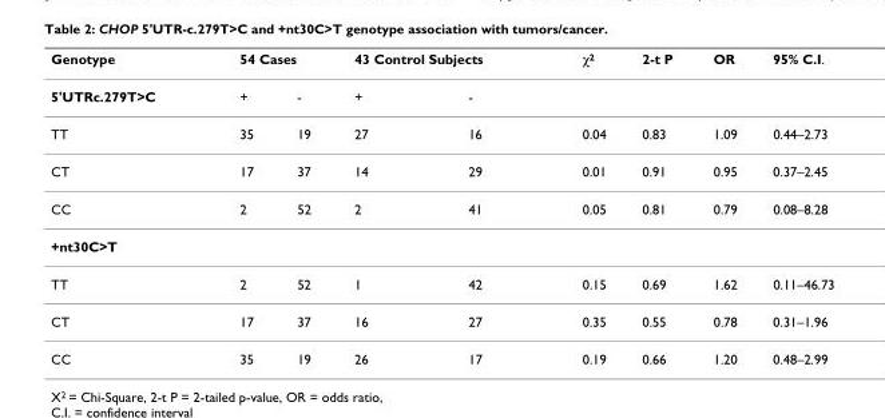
<table><thead><tr><td rowspan="2">Genotype 5&#x27;UTRc.279T&gt;C</td><td colspan="2">54 Cases</td><td colspan="2">43 Control Subjects</td><td rowspan="2">χ<sup>2</sup></td><td rowspan="2">2-t P</td><td rowspan="2">OR</td><td rowspan="2">95% C.I.</td></tr><tr><td>+</td><td>-</td><td>+</td><td>-</td></tr></thead><tbody><tr><td>TT</td><td>35</td><td>19</td><td>27</td><td>16</td><td>0.04</td><td>0.83</td><td>1.09</td><td>0.44–2.73</td></tr><tr><td>CT</td><td>17</td><td>37</td><td>14</td><td>29</td><td>0.01</td><td>0.91</td><td>0.95</td><td>0.37–2.45</td></tr><tr><td>CC</td><td>2</td><td>52</td><td>2</td><td>41</td><td>0.05</td><td>0.81</td><td>0.79</td><td>0.08–8.28</td></tr><tr><td colspan="9">+nt30C&gt;T</td></tr><tr><td>TT</td><td>2</td><td>52</td><td>1</td><td>42</td><td>0.15</td><td>0.69</td><td>1.62</td><td>0.11–46.73</td></tr><tr><td>CT</td><td>17</td><td>37</td><td>16</td><td>27</td><td>0.35</td><td>0.55</td><td>0.78</td><td>0.31–1.96</td></tr><tr><td>CC</td><td>35</td><td>19</td><td>26</td><td>17</td><td>0.19</td><td>0.66</td><td>1.20</td><td>0.48–2.99</td></tr></tbody></table>